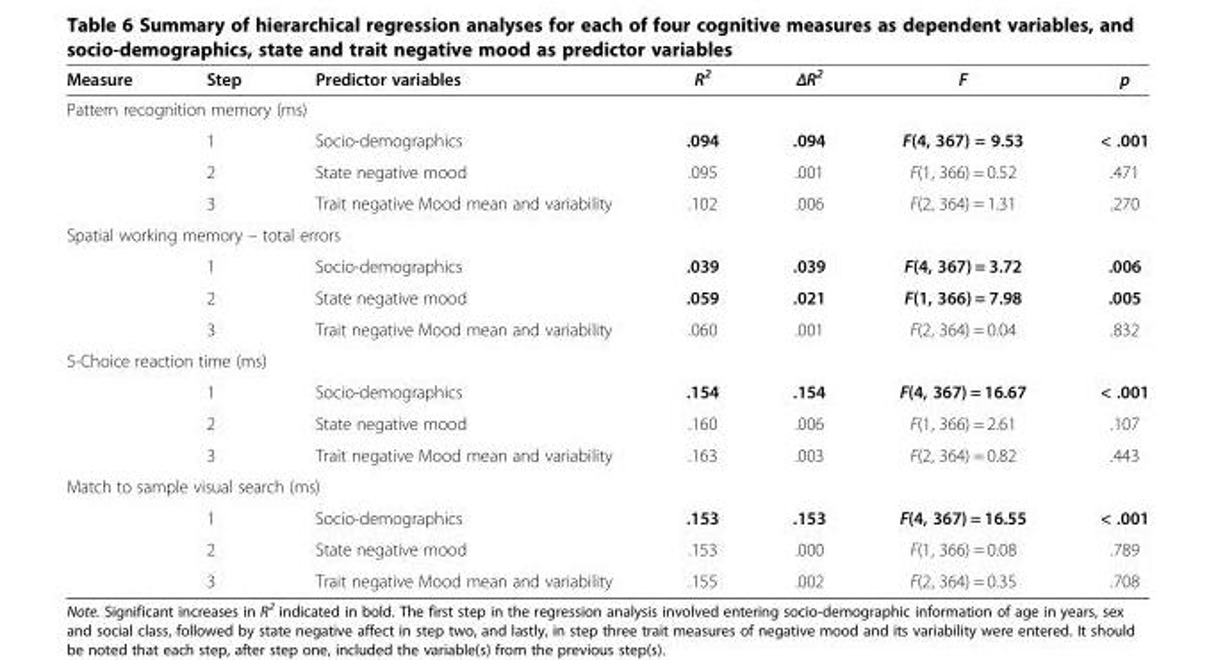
<table><thead><tr><td>Measure</td><td>Step</td><td>Predictor variables</td><td>R<sup>2</sup></td><td>ΔR2</td><td>F</td><td>p</td></tr></thead><tbody><tr><td colspan="7">Pattern recognition memory (ms)</td></tr><tr><td></td><td>1</td><td>Socio-demographics</td><td>.094</td><td>.094</td><td>F(4, 367) = 9.53</td><td>&lt; .001</td></tr><tr><td></td><td>2</td><td>State negative mood</td><td>.095</td><td>.001</td><td>F(1, 366) = 0.52</td><td>.471</td></tr><tr><td></td><td>3</td><td>Trait negative Mood mean and variability</td><td>.102</td><td>.006</td><td>F(2, 364) = 1.31</td><td>.270</td></tr><tr><td colspan="7">Spatial working memory – total errors</td></tr><tr><td></td><td>1</td><td>Socio-demographics</td><td>.039</td><td>.039</td><td>F(4, 367) = 3.72</td><td>.006</td></tr><tr><td></td><td>2</td><td>State negative mood</td><td>.059</td><td>.021</td><td>F(1, 366) = 7.98</td><td>.005</td></tr><tr><td></td><td>3</td><td>Trait negative Mood mean and variability</td><td>.060</td><td>.001</td><td>F(2, 364) = 0.04</td><td>.832</td></tr><tr><td colspan="7">5-Choice reaction time (ms)</td></tr><tr><td></td><td>1</td><td>Socio-demographics</td><td>.154</td><td>.154</td><td>F(4, 367) = 16.67</td><td>&lt; .001</td></tr><tr><td></td><td>2</td><td>State negative mood</td><td>.160</td><td>.006</td><td>F(1, 366) = 2.61</td><td>.107</td></tr><tr><td></td><td>3</td><td>Trait negative Mood mean and variability</td><td>.163</td><td>.003</td><td>F(2, 364) = 0.82</td><td>.443</td></tr><tr><td colspan="7">Match to sample visual search (ms)</td></tr><tr><td></td><td>1</td><td>Socio-demographics</td><td>.153</td><td>.153</td><td>F(4, 367) = 16.55</td><td>&lt; .001</td></tr><tr><td></td><td>2</td><td>State negative mood</td><td>.153</td><td>.000</td><td>F(1, 366) = 0.08</td><td>.789</td></tr><tr><td></td><td>3</td><td>Trait negative Mood mean and variability</td><td>.155</td><td>.002</td><td>F(2, 364) = 0.35</td><td>.708</td></tr></tbody></table>